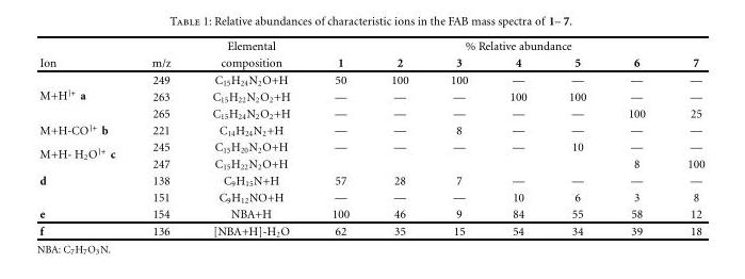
<table><thead><tr><td rowspan="2">Ion</td><td rowspan="2">m/z</td><td rowspan="2">Elemental composition</td><td colspan="7">% Relative abundance</td></tr><tr><td>1</td><td>2</td><td>3</td><td>4</td><td>5</td><td>6</td><td>7</td></tr></thead><tbody><tr><td rowspan="3">M+H<sup>⌉+</sup> a</td><td>249</td><td>C<sub>15</sub>H<sub>24</sub>N<sub>2</sub>O+H</td><td>50</td><td>100</td><td>100</td><td>—</td><td>—</td><td>—</td><td>—</td></tr><tr><td>263</td><td>C<sub>15</sub>H<sub>22</sub>N<sub>2</sub>O<sub>2</sub>+H</td><td>—</td><td>—</td><td>—</td><td>100</td><td>100</td><td>—</td><td>—</td></tr><tr><td>265</td><td>C<sub>15</sub>H<sub>24</sub>N<sub>2</sub>O<sub>2</sub>+H</td><td>—</td><td>—</td><td>—</td><td>—</td><td>—</td><td>100</td><td>25</td></tr><tr><td>M+H-CO<sup>⌉+</sup> b</td><td>221</td><td>C<sub>14</sub>H<sub>24</sub>N<sub>2</sub>+H</td><td>—</td><td>—</td><td>8</td><td>—</td><td>—</td><td>—</td><td>—</td></tr><tr><td rowspan="2">M+H- H<sub>2</sub>O<sup>⌉+</sup> c</td><td>245</td><td>C<sub>15</sub>H<sub>20</sub>N<sub>2</sub>O+H</td><td>—</td><td>—</td><td>—</td><td>—</td><td>10</td><td>—</td><td>—</td></tr><tr><td>247</td><td>C<sub>15</sub>H<sub>22</sub>N<sub>2</sub>O+H</td><td></td><td></td><td></td><td></td><td></td><td>8</td><td>100</td></tr><tr><td rowspan="2">d</td><td>138</td><td>C<sub>9</sub>H<sub>15</sub>N+H</td><td>57</td><td>28</td><td>7</td><td>—</td><td>—</td><td>—</td><td>—</td></tr><tr><td>151</td><td>C<sub>9</sub>H<sub>12</sub>NO+H</td><td>—</td><td>—</td><td>—</td><td>10</td><td>6</td><td>3</td><td>8</td></tr><tr><td>e</td><td>154</td><td>NBA+H</td><td>100</td><td>46</td><td>9</td><td>84</td><td>55</td><td>58</td><td>12</td></tr><tr><td>f</td><td>136</td><td>[NBA+H]-H<sub>2</sub>O</td><td>62</td><td>35</td><td>15</td><td>54</td><td>34</td><td>39</td><td>18</td></tr></tbody></table>